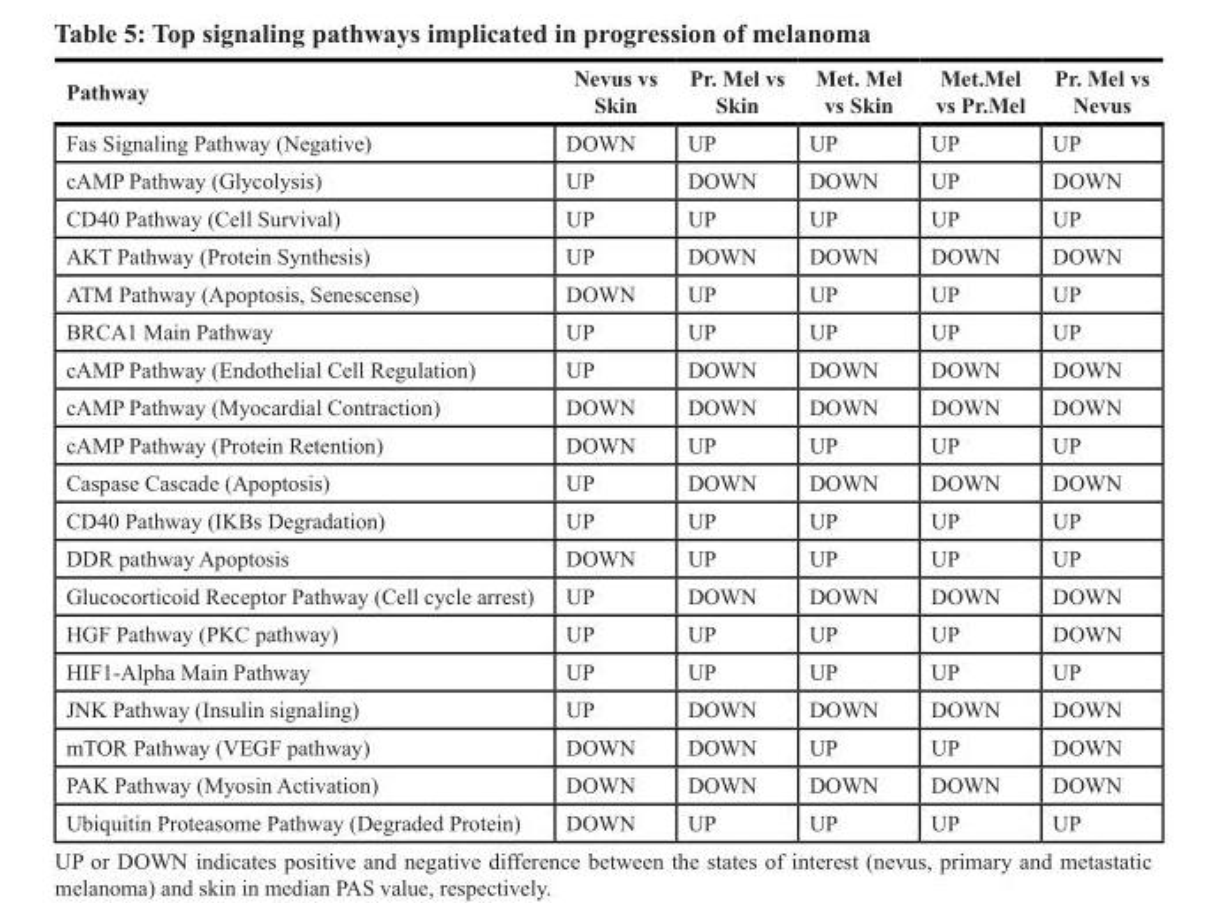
<table><thead><tr><td>Pathway</td><td>Nevus vs Skin</td><td>Pr. Mel vs Skin</td><td>Met. Mel vs Skin</td><td>Met.Mel vs Pr.Mel</td><td>Pr. Mel vs Nevus</td></tr></thead><tbody><tr><td>Fas Signaling Pathway (Negative)</td><td>DOWN</td><td>UP</td><td>UP</td><td>UP</td><td>UP</td></tr><tr><td>cAMP Pathway (Glycolysis)</td><td>UP</td><td>DOWN</td><td>DOWN</td><td>UP</td><td>DOWN</td></tr><tr><td>CD40 Pathway (Cell Survival)</td><td>UP</td><td>UP</td><td>UP</td><td>UP</td><td>UP</td></tr><tr><td>AKT Pathway (Protein Synthesis)</td><td>UP</td><td>DOWN</td><td>DOWN</td><td>DOWN</td><td>DOWN</td></tr><tr><td>ATM Pathway (Apoptosis, Senescense)</td><td>DOWN</td><td>UP</td><td>UP</td><td>UP</td><td>UP</td></tr><tr><td>BRCA1 Main Pathway</td><td>UP</td><td>UP</td><td>UP</td><td>UP</td><td>UP</td></tr><tr><td>cAMP Pathway (Endothelial Cell Regulation)</td><td>UP</td><td>DOWN</td><td>DOWN</td><td>DOWN</td><td>DOWN</td></tr><tr><td>cAMP Pathway (Myocardial Contraction)</td><td>DOWN</td><td>DOWN</td><td>DOWN</td><td>DOWN</td><td>DOWN</td></tr><tr><td>cAMP Pathway (Protein Retention)</td><td>DOWN</td><td>UP</td><td>UP</td><td>UP</td><td>UP</td></tr><tr><td>Caspase Cascade (Apoptosis)</td><td>UP</td><td>DOWN</td><td>DOWN</td><td>DOWN</td><td>DOWN</td></tr><tr><td>CD40 Pathway (IKBs Degradation)</td><td>UP</td><td>UP</td><td>UP</td><td>UP</td><td>UP</td></tr><tr><td>DDR pathway Apoptosis</td><td>DOWN</td><td>UP</td><td>UP</td><td>UP</td><td>UP</td></tr><tr><td>Glucocorticoid Receptor Pathway (Cell cycle arrest)</td><td>UP</td><td>DOWN</td><td>DOWN</td><td>DOWN</td><td>DOWN</td></tr><tr><td>HGF Pathway (PKC pathway)</td><td>UP</td><td>UP</td><td>UP</td><td>UP</td><td>DOWN</td></tr><tr><td>HIF1-Alpha Main Pathway</td><td>UP</td><td>UP</td><td>UP</td><td>UP</td><td>UP</td></tr><tr><td>JNK Pathway (Insulin signaling)</td><td>UP</td><td>DOWN</td><td>DOWN</td><td>DOWN</td><td>DOWN</td></tr><tr><td>mTOR Pathway (VEGF pathway)</td><td>DOWN</td><td>DOWN</td><td>UP</td><td>UP</td><td>DOWN</td></tr><tr><td>PAK Pathway (Myosin Activation)</td><td>DOWN</td><td>DOWN</td><td>DOWN</td><td>DOWN</td><td>DOWN</td></tr><tr><td>Ubiquitin Proteasome Pathway (Degraded Protein)</td><td>DOWN</td><td>UP</td><td>UP</td><td>UP</td><td>UP</td></tr></tbody></table>